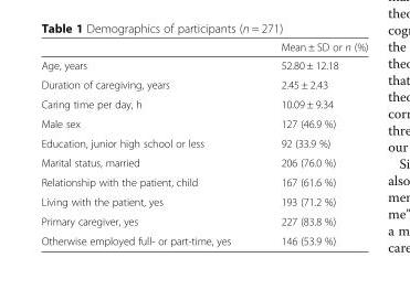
<table><thead><tr><td></td><td>Mean ± SD or n (%)</td></tr></thead><tbody><tr><td>Age, years</td><td>52.80 ± 12.18</td></tr><tr><td>Duration of caregiving, years</td><td>2.45 ± 2.43</td></tr><tr><td>Caring time per day, h</td><td>10.09 ± 9.34</td></tr><tr><td>Male sex</td><td>127 (46.9 %)</td></tr><tr><td>Education, junior high school or less</td><td>92 (33.9 %)</td></tr><tr><td>Marital status, married</td><td>206 (76.0 %)</td></tr><tr><td>Relationship with the patient, child</td><td>167 (61.6 %)</td></tr><tr><td>Living with the patient, yes</td><td>193 (71.2 %)</td></tr><tr><td>Primary caregiver, yes</td><td>227 (83.8 %)</td></tr><tr><td>Otherwise employed full- or part-time, yes</td><td>146 (53.9 %)</td></tr></tbody></table>